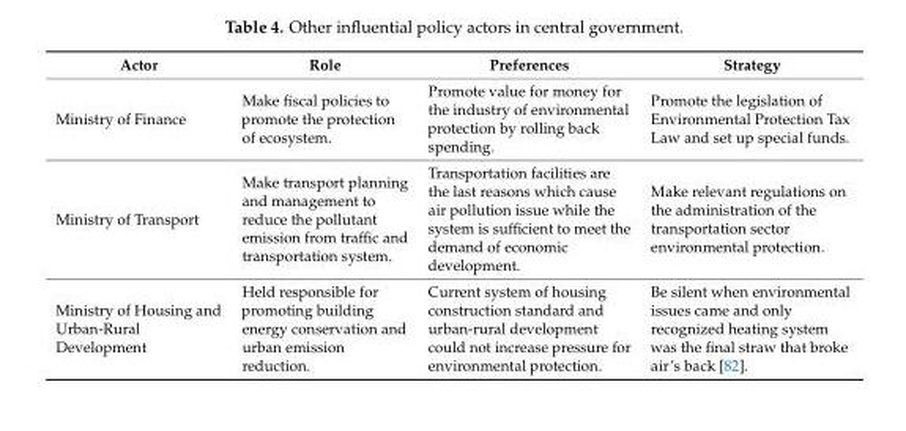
<table><thead><tr><td>Actor</td><td>Role</td><td>Preferences</td><td>Strategy</td></tr></thead><tbody><tr><td>Ministry of Finance</td><td>Make fiscal policies to promote the protection of ecosystem.</td><td>Promote value for money for the industry of environmental protection by rolling back spending.</td><td>Promote the legislation of Environmental Protection Tax Law and set up special funds.</td></tr><tr><td>Ministry of Transport</td><td>Make transport planning and management to reduce the pollutant emission from traffic and transportation system.</td><td>Transportation facilities are the last reasons which cause air pollution issue while the system is sufficient to meet the demand of economic development.</td><td>Make relevant regulations on the administration of the transportation sector environmental protection.</td></tr><tr><td>Ministry of Housing and Urban-Rural Development</td><td>Held responsible for promoting building energy conservation and urban emission reduction.</td><td>Current system of housing construction standard and urban-rural development could not increase pressure for environmental protection.</td><td>Be silent when environmental issues came and only recognized heating system was the final straw that broke air’s back [82].</td></tr></tbody></table>